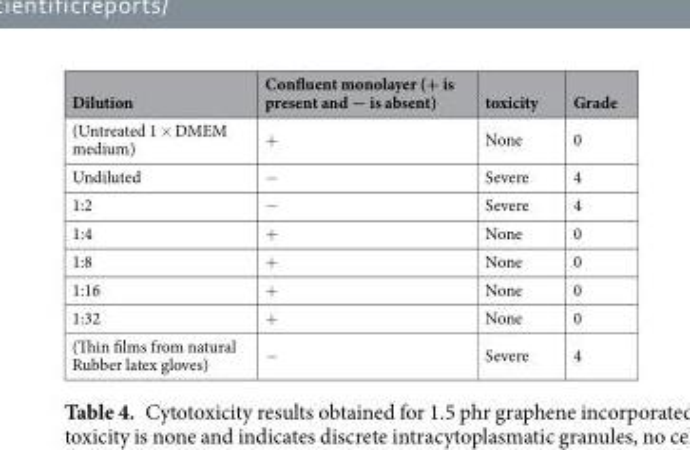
<table><thead><tr><td>Dilution</td><td>Confluent monolayer (+ is present and − is absent)</td><td>toxicity</td><td>Grade</td></tr></thead><tbody><tr><td>(Untreated 1 × DMEM medium)</td><td>+</td><td>None</td><td>0</td></tr><tr><td>Undiluted</td><td>−</td><td>Severe</td><td>4</td></tr><tr><td>1:2</td><td>−</td><td>Severe</td><td>4</td></tr><tr><td>1:4</td><td>+</td><td>None</td><td>0</td></tr><tr><td>1:8</td><td>+</td><td>None</td><td>0</td></tr><tr><td>1:16</td><td>+</td><td>None</td><td>0</td></tr><tr><td>1:32</td><td>+</td><td>None</td><td>0</td></tr><tr><td>(Thin films from natural Rubber latex gloves)</td><td>−</td><td>Severe</td><td>4</td></tr></tbody></table>